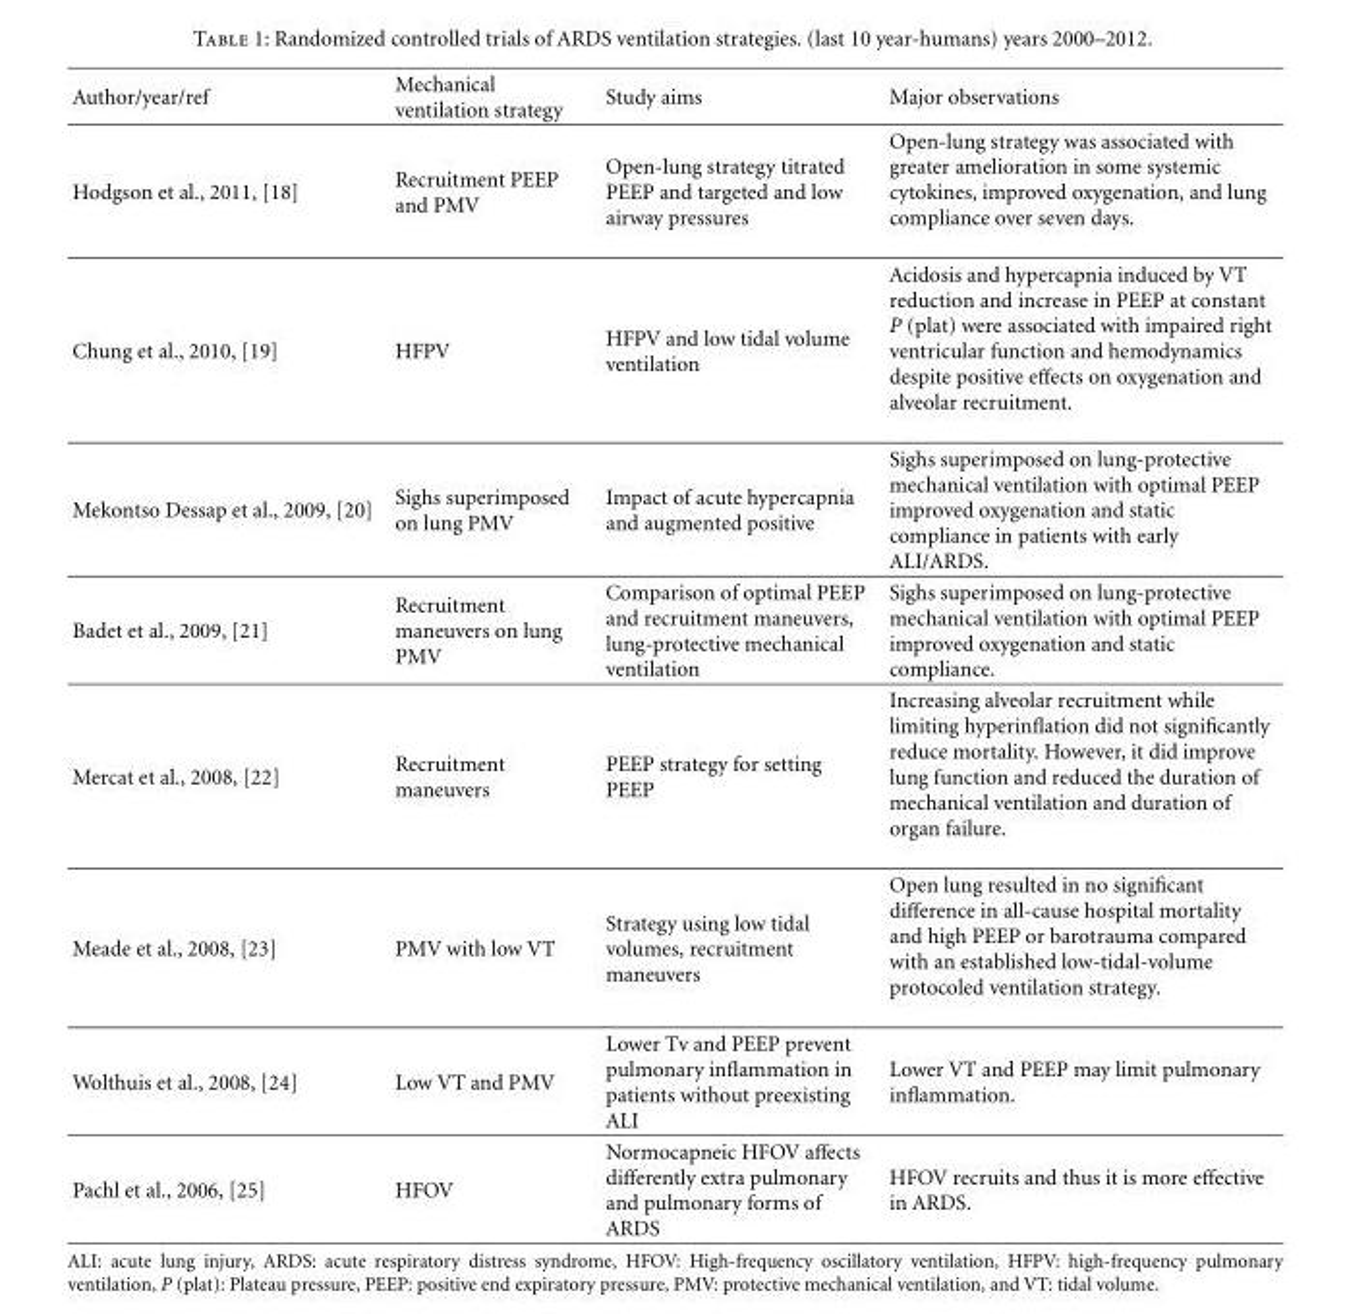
<table><thead><tr><td>Author/year/ref</td><td>Mechanical ventilation strategy</td><td>Study aims</td><td>Major observations</td></tr></thead><tbody><tr><td>Hodgson et al., 2011, [18]</td><td>Recruitment PEEP and PMV</td><td>Open-lung strategy titrated PEEP and targeted and low airway pressures</td><td>Open-lung strategy was associated with greater amelioration in some systemic cytokines, improved oxygenation, and lung compliance over seven days.</td></tr><tr><td>Chung et al., 2010, [19]</td><td>HFPV</td><td>HFPV and low tidal volume ventilation</td><td>Acidosis and hypercapnia induced by VT reduction and increase in PEEP at constant P (plat) were associated with impaired right ventricular function and hemodynamics despite positive effects on oxygenation and alveolar recruitment.</td></tr><tr><td>Mekontso Dessap et al., 2009, [20]</td><td>Sighs superimposed on lung PMV</td><td>Impact of acute hypercapnia and augmented positive</td><td>Sighs superimposed on lung-protective mechanical ventilation with optimal PEEP improved oxygenation and static compliance in patients with early ALI/ARDS.</td></tr><tr><td>Badet et al., 2009, [21]</td><td>Recruitment maneuvers on lung PMV</td><td>Comparison of optimal PEEP and recruitment maneuvers, lung-protective mechanical ventilation</td><td>Sighs superimposed on lung-protective mechanical ventilation with optimal PEEP improved oxygenation and static compliance.</td></tr><tr><td>Mercat et al., 2008, [22]</td><td>Recruitment maneuvers</td><td>PEEP strategy for setting PEEP</td><td>Increasing alveolar recruitment while limiting hyperinflation did not significantly reduce mortality. However, it did improve lung function and reduced the duration of mechanical ventilation and duration of organ failure.</td></tr><tr><td>Meade et al., 2008, [23]</td><td>PMV with low VT</td><td>Strategy using low tidal volumes, recruitment maneuvers</td><td>Open lung resulted in no significant difference in all-cause hospital mortality and high PEEP or barotrauma compared with an established low-tidal-volume protocoled ventilation strategy.</td></tr><tr><td>Wolthuis et al., 2008, [24]</td><td>Low VT and PMV</td><td>Lower Tv and PEEP prevent pulmonary inflammation in patients without preexisting ALI</td><td>Lower VT and PEEP may limit pulmonary inflammation.</td></tr><tr><td>Pachl et al., 2006, [25]</td><td>HFOV</td><td>Normocapneic HFOV affects differently extra pulmonary and pulmonary forms of ARDS</td><td>HFOV recruits and thus it is more effective in ARDS.</td></tr></tbody></table>